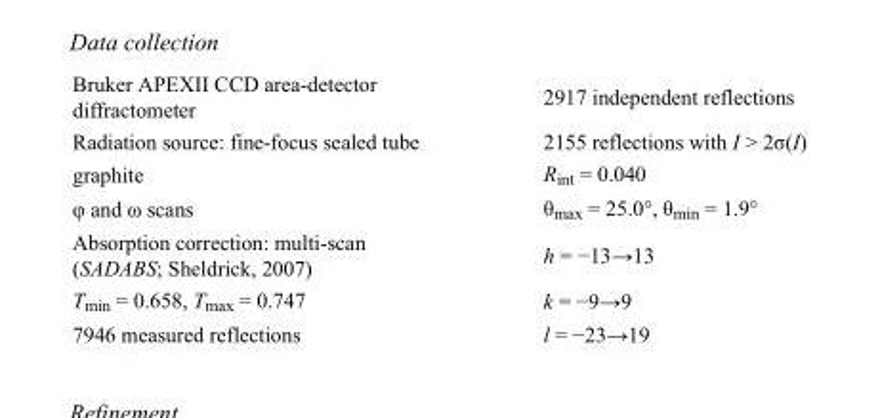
<table><tbody><tr><td>Bruker APEXII CCD area-detector diffractometer</td><td>2917 independent reflections</td></tr><tr><td>Radiation source: fine-focus sealed tube</td><td>2155 reflections with I &gt; 2σ(I)</td></tr><tr><td>graphite</td><td>R<sub>int</sub> = 0.040</td></tr><tr><td>φ and ω scans</td><td>θ<sub>max</sub> = 25.0°, θ<sub>min</sub> = 1.9°</td></tr><tr><td>Absorption correction: multi-scan (SADABS; Sheldrick, 2007)</td><td>h = −13→13</td></tr><tr><td>T<sub>min</sub> = 0.658, T<sub>max</sub> = 0.747</td><td>k = −9→9</td></tr><tr><td>7946 measured reflections</td><td>l = −23→19</td></tr></tbody></table>